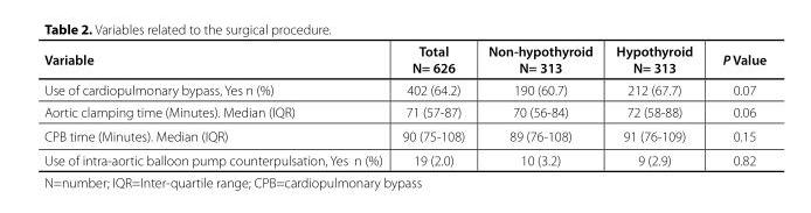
<table><thead><tr><td>Variable</td><td>Total N= 626</td><td>Non-hypothyroid N= 313</td><td>Hypothyroid N= 313</td><td>P Value</td></tr></thead><tbody><tr><td>Use of cardiopulmonary bypass, Yes n (%)</td><td>402 (64.2)</td><td>190 (60.7)</td><td>212 (67.7)</td><td>0.07</td></tr><tr><td>Aortic clamping time (Minutes). Median (IQR)</td><td>71 (57-87)</td><td>70 (56-84)</td><td>72 (58-88)</td><td>0.06</td></tr><tr><td>CPB time (Minutes). Median (IQR)</td><td>90 (75-108)</td><td>89 (76-108)</td><td>91 (76-109)</td><td>0.15</td></tr><tr><td>Use of intra-aortic balloon pump counterpulsation, Yes n (%)</td><td>19 (2.0)</td><td>10 (3.2)</td><td>9 (2.9)</td><td>0.82</td></tr></tbody></table>